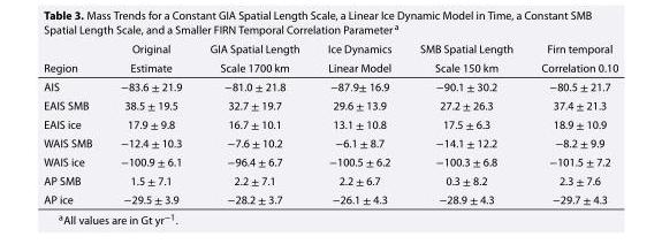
<table><thead><tr><td rowspan="2">Region</td><td rowspan="2">Original Estimate</td><td rowspan="2">GIA Spatial Length Scale 1700 km</td><td rowspan="2">Ice Dynamics Linear Model</td><td rowspan="2">SMB Spatial Length Scale 150 km</td><td rowspan="2">Firn temporal Correlation 0.10</td></tr><tr></tr></thead><tbody><tr><td>AIS</td><td>−83.6 ± 21.9</td><td>−81.0 ± 21.8</td><td>−87.9± 16.9</td><td>−90.1 ± 30.2</td><td>−80.5 ± 21.7</td></tr><tr><td>EAIS SMB</td><td>38.5 ± 19.5</td><td>32.7 ± 19.7</td><td>29.6 ± 13.9</td><td>27.2 ± 26.3</td><td>37.4 ± 21.3</td></tr><tr><td>EAIS ice</td><td>17.9 ± 9.8</td><td>16.7 ± 10.1</td><td>13.1 ± 10.8</td><td>17.5 ± 6.3</td><td>18.9 ± 10.9</td></tr><tr><td>WAIS SMB</td><td>−12.4 ± 10.3</td><td>−7.6 ± 10.2</td><td>−6.1 ± 8.7</td><td>−14.1 ± 12.2</td><td>−8.2 ± 9.9</td></tr><tr><td>WAIS ice</td><td>−100.9 ± 6.1</td><td>−96.4 ± 6.7</td><td>−100.5 ± 6.2</td><td>−100.3 ± 6.8</td><td>−101.5 ± 7.2</td></tr><tr><td>AP SMB</td><td>1.5 ± 7.1</td><td>2.2 ± 7.1</td><td>2.2 ± 6.7</td><td>0.3 ± 8.2</td><td>2.3 ± 7.6</td></tr><tr><td>AP ice</td><td>−29.5 ± 3.9</td><td>−28.2 ± 3.7</td><td>−26.1 ± 4.3</td><td>−28.9 ± 4.3</td><td>−29.7 ± 4.3</td></tr></tbody></table>